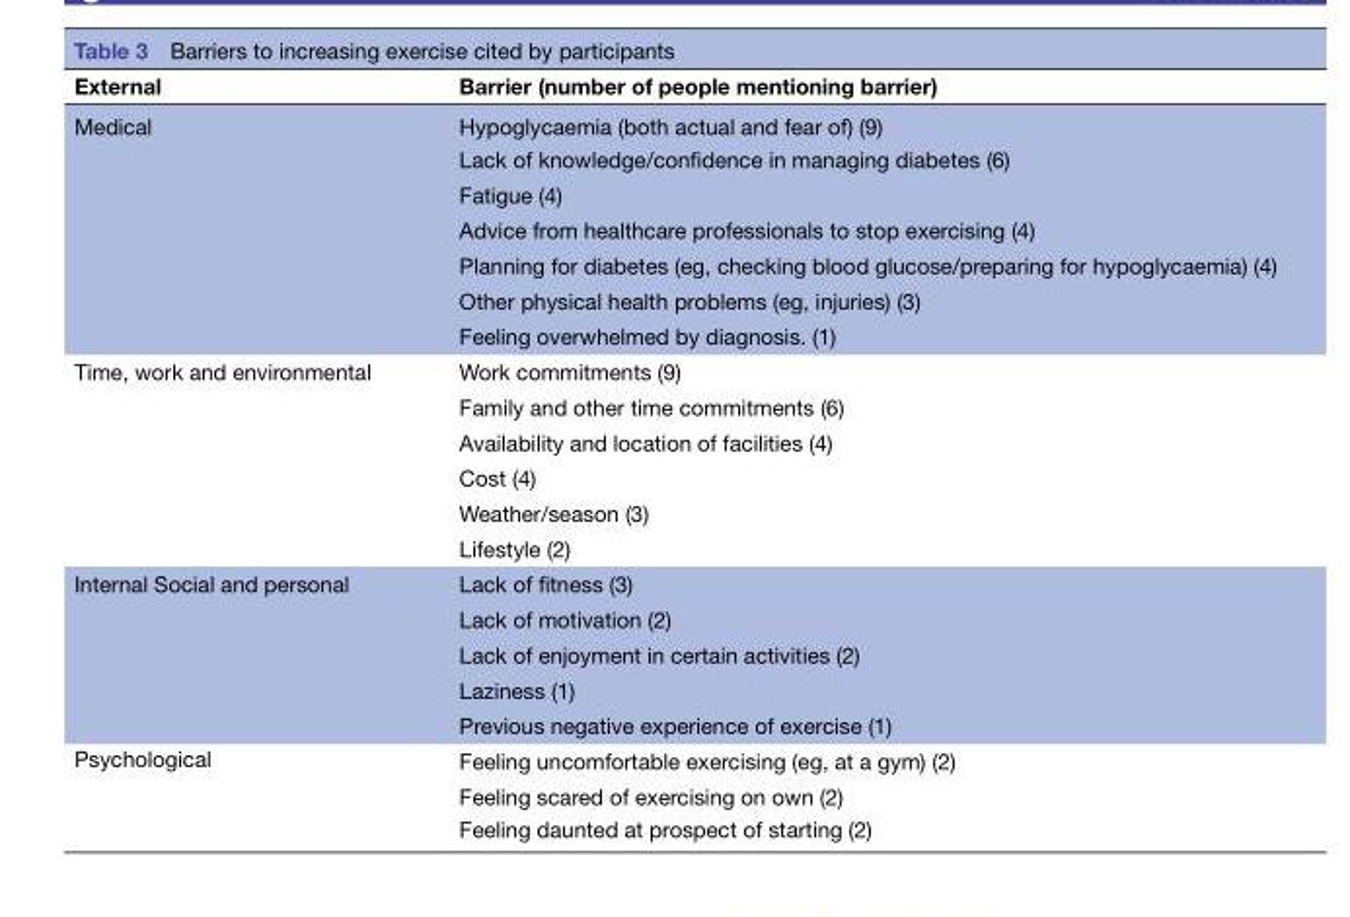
<table><thead><tr><td>External</td><td>Barrier (number of people mentioning barrier)</td></tr></thead><tbody><tr><td rowspan="7">Medical</td><td>Hypoglycaemia (both actual and fear of) (9)</td></tr><tr><td>Lack of knowledge/confidence in managing diabetes (6)</td></tr><tr><td>Fatigue (4)</td></tr><tr><td>Advice from healthcare professionals to stop exercising (4)</td></tr><tr><td>Planning for diabetes (eg, checking blood glucose/preparing for hypoglycaemia) (4)</td></tr><tr><td>Other physical health problems (eg, injuries) (3)</td></tr><tr><td>Feeling overwhelmed by diagnosis. (1)</td></tr><tr><td rowspan="6">Time, work and environmental</td><td>Work commitments (9)</td></tr><tr><td>Family and other time commitments (6)</td></tr><tr><td>Availability and location of facilities (4)</td></tr><tr><td>Cost (4)</td></tr><tr><td>Weather/season (3)</td></tr><tr><td>Lifestyle (2)</td></tr><tr><td rowspan="5">Internal Social and personal</td><td>Lack of fitness (3)</td></tr><tr><td>Lack of motivation (2)</td></tr><tr><td>Lack of enjoyment in certain activities (2)</td></tr><tr><td>Laziness (1)</td></tr><tr><td>Previous negative experience of exercise (1)</td></tr><tr><td rowspan="3">Psychological</td><td>Feeling uncomfortable exercising (eg, at a gym) (2)</td></tr><tr><td>Feeling scared of exercising on own (2)</td></tr><tr><td>Feeling daunted at prospect of starting (2)</td></tr></tbody></table>